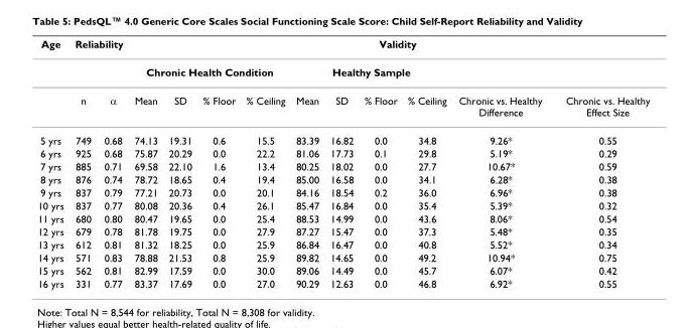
<table><thead><tr><td rowspan="3">Age</td><td colspan="2">Reliability</td><td colspan="10">Validity</td></tr><tr><td rowspan="2">n</td><td rowspan="2">α</td><td colspan="4">Chronic Health Condition</td><td colspan="4">Healthy Sample</td><td rowspan="2">Chronic vs. Healthy Difference</td><td rowspan="2">Chronic vs. Healthy Effect Size</td></tr><tr><td>Mean</td><td>SD</td><td>% Floor</td><td>% Ceiling</td><td>Mean</td><td>SD</td><td>% Floor</td><td>% Ceiling</td></tr></thead><tbody><tr><td>5 yrs</td><td>749</td><td>0.68</td><td>74.13</td><td>19.31</td><td>0.6</td><td>15.5</td><td>83.39</td><td>16.82</td><td>0.0</td><td>34.8</td><td>9.26*</td><td>0.55</td></tr><tr><td>6 yrs</td><td>925</td><td>0.68</td><td>75.87</td><td>20.29</td><td>0.0</td><td>22.2</td><td>81.06</td><td>17.73</td><td>0.1</td><td>29.8</td><td>5.19*</td><td>0.29</td></tr><tr><td>7 yrs</td><td>885</td><td>0.71</td><td>69.58</td><td>22.10</td><td>1.6</td><td>13.4</td><td>80.25</td><td>18.02</td><td>0.0</td><td>27.7</td><td>10.67*</td><td>0.59</td></tr><tr><td>8 yrs</td><td>876</td><td>0.74</td><td>78.72</td><td>18.65</td><td>0.4</td><td>19.4</td><td>85.00</td><td>16.58</td><td>0.0</td><td>34.1</td><td>6.28*</td><td>0.38</td></tr><tr><td>9 yrs</td><td>837</td><td>0.79</td><td>77.21</td><td>20.73</td><td>0.0</td><td>20.1</td><td>84.16</td><td>18.54</td><td>0.2</td><td>36.0</td><td>6.96*</td><td>0.38</td></tr><tr><td>10 yrs</td><td>837</td><td>0.77</td><td>80.08</td><td>20.36</td><td>0.4</td><td>26.1</td><td>85.47</td><td>16.84</td><td>0.0</td><td>35.4</td><td>5.39*</td><td>0.32</td></tr><tr><td>11 yrs</td><td>680</td><td>0.80</td><td>80.47</td><td>19.65</td><td>0.0</td><td>25.4</td><td>88.53</td><td>14.99</td><td>0.0</td><td>43.6</td><td>8.06*</td><td>0.54</td></tr><tr><td>12 yrs</td><td>679</td><td>0.78</td><td>81.78</td><td>19.75</td><td>0.0</td><td>27.9</td><td>87.27</td><td>15.47</td><td>0.0</td><td>37.3</td><td>5.48*</td><td>0.35</td></tr><tr><td>13 yrs</td><td>612</td><td>0.81</td><td>81.32</td><td>18.25</td><td>0.0</td><td>25.9</td><td>86.84</td><td>16.47</td><td>0.0</td><td>40.8</td><td>5.52*</td><td>0.34</td></tr><tr><td>14 yrs</td><td>571</td><td>0.83</td><td>78.88</td><td>21.53</td><td>0.8</td><td>25.9</td><td>89.82</td><td>14.65</td><td>0.0</td><td>49.2</td><td>10.94*</td><td>0.75</td></tr><tr><td>15 yrs</td><td>562</td><td>0.81</td><td>82.99</td><td>17.59</td><td>0.0</td><td>30.0</td><td>89.06</td><td>14.49</td><td>0.0</td><td>45.7</td><td>6.07*</td><td>0.42</td></tr><tr><td>16 yrs</td><td>331</td><td>0.77</td><td>83.37</td><td>17.69</td><td>0.0</td><td>27.0</td><td>90.29</td><td>12.63</td><td>0.0</td><td>46.8</td><td>6.92*</td><td>0.55</td></tr></tbody></table>